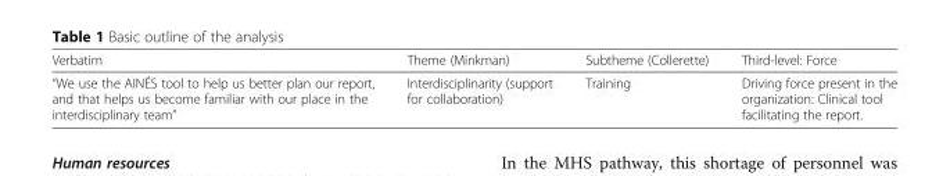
<table><thead><tr><td>Verbatim</td><td>Theme (Minkman)</td><td>Subtheme (Collerette)</td><td>Third-level: Force</td></tr></thead><tbody><tr><td>“We use the AINÉS tool to help us better plan our report, and that helps us become familiar with our place in the interdisciplinary team”</td><td>Interdisciplinarity (support for collaboration)</td><td>Training</td><td>Driving force present in the organization: Clinical tool facilitating the report.</td></tr></tbody></table>